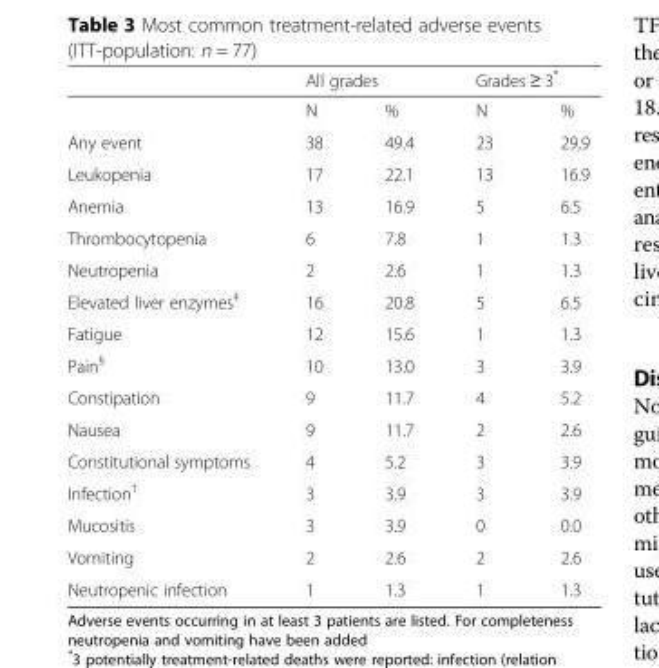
<table><thead><tr><td rowspan="2"></td><td colspan="2">All grades</td><td colspan="2">Grades ≥ 3*</td></tr><tr><td>N</td><td>%</td><td>N</td><td>%</td></tr></thead><tbody><tr><td>Any event</td><td>38</td><td>49.4</td><td>23</td><td>29,9</td></tr><tr><td>Leukopenia</td><td>17</td><td>22.1</td><td>13</td><td>16.9</td></tr><tr><td>Anemia</td><td>13</td><td>16.9</td><td>5</td><td>6.5</td></tr><tr><td>Thrombocytopenia</td><td>6</td><td>7.8</td><td>1</td><td>1.3</td></tr><tr><td>Neutropenia</td><td>2</td><td>2.6</td><td>1</td><td>1.3</td></tr><tr><td>Elevated liver enzymes<sup>‡</sup></td><td>16</td><td>20.8</td><td>5</td><td>6.5</td></tr><tr><td>Fatigue</td><td>12</td><td>15.6</td><td>1</td><td>1.3</td></tr><tr><td>Pain<sup>§</sup></td><td>10</td><td>13.0</td><td>3</td><td>3.9</td></tr><tr><td>Constipation</td><td>9</td><td>11.7</td><td>4</td><td>5.2</td></tr><tr><td>Nausea</td><td>9</td><td>11.7</td><td>2</td><td>2.6</td></tr><tr><td>Constitutional symptoms</td><td>4</td><td>5.2</td><td>3</td><td>3.9</td></tr><tr><td>Infection<sup>†</sup></td><td>3</td><td>3.9</td><td>3</td><td>3.9</td></tr><tr><td>Mucositis</td><td>3</td><td>3.9</td><td>0</td><td>0.0</td></tr><tr><td>Vomiting</td><td>2</td><td>2.6</td><td>2</td><td>2.6</td></tr><tr><td>Neutropenic infection</td><td>1</td><td>1.3</td><td>1</td><td>1.3</td></tr></tbody></table>